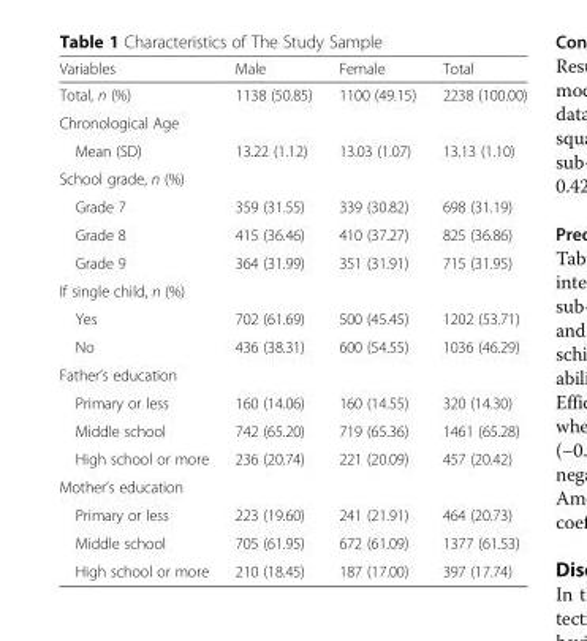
<table><thead><tr><td>Variables</td><td>Male</td><td>Female</td><td>Total</td></tr></thead><tbody><tr><td>Total, n (%)</td><td>1138 (50.85)</td><td>1100 (49.15)</td><td>2238 (100.00)</td></tr><tr><td colspan="4">Chronological Age</td></tr><tr><td>Mean (SD)</td><td>13.22 (1.12)</td><td>13.03 (1.07)</td><td>13.13 (1.10)</td></tr><tr><td colspan="4">School grade, n (%)</td></tr><tr><td>Grade 7</td><td>359 (31.55)</td><td>339 (30.82)</td><td>698 (31.19)</td></tr><tr><td>Grade 8</td><td>415 (36.46)</td><td>410 (37.27)</td><td>825 (36.86)</td></tr><tr><td>Grade 9</td><td>364 (31.99)</td><td>351 (31.91)</td><td>715 (31.95)</td></tr><tr><td colspan="4">If single child, n (%)</td></tr><tr><td>Yes</td><td>702 (61.69)</td><td>500 (45.45)</td><td>1202 (53.71)</td></tr><tr><td>No</td><td>436 (38.31)</td><td>600 (54.55)</td><td>1036 (46.29)</td></tr><tr><td colspan="4">Father’s education</td></tr><tr><td>Primary or less</td><td>160 (14.06)</td><td>160 (14.55)</td><td>320 (14.30)</td></tr><tr><td>Middle school</td><td>742 (65.20)</td><td>719 (65.36)</td><td>1461 (65.28)</td></tr><tr><td>High school or more</td><td>236 (20.74)</td><td>221 (20.09)</td><td>457 (20.42)</td></tr><tr><td colspan="4">Mother’s education</td></tr><tr><td>Primary or less</td><td>223 (19.60)</td><td>241 (21.91)</td><td>464 (20.73)</td></tr><tr><td>Middle school</td><td>705 (61.95)</td><td>672 (61.09)</td><td>1377 (61.53)</td></tr><tr><td>High school or more</td><td>210 (18.45)</td><td>187 (17.00)</td><td>397 (17.74)</td></tr></tbody></table>